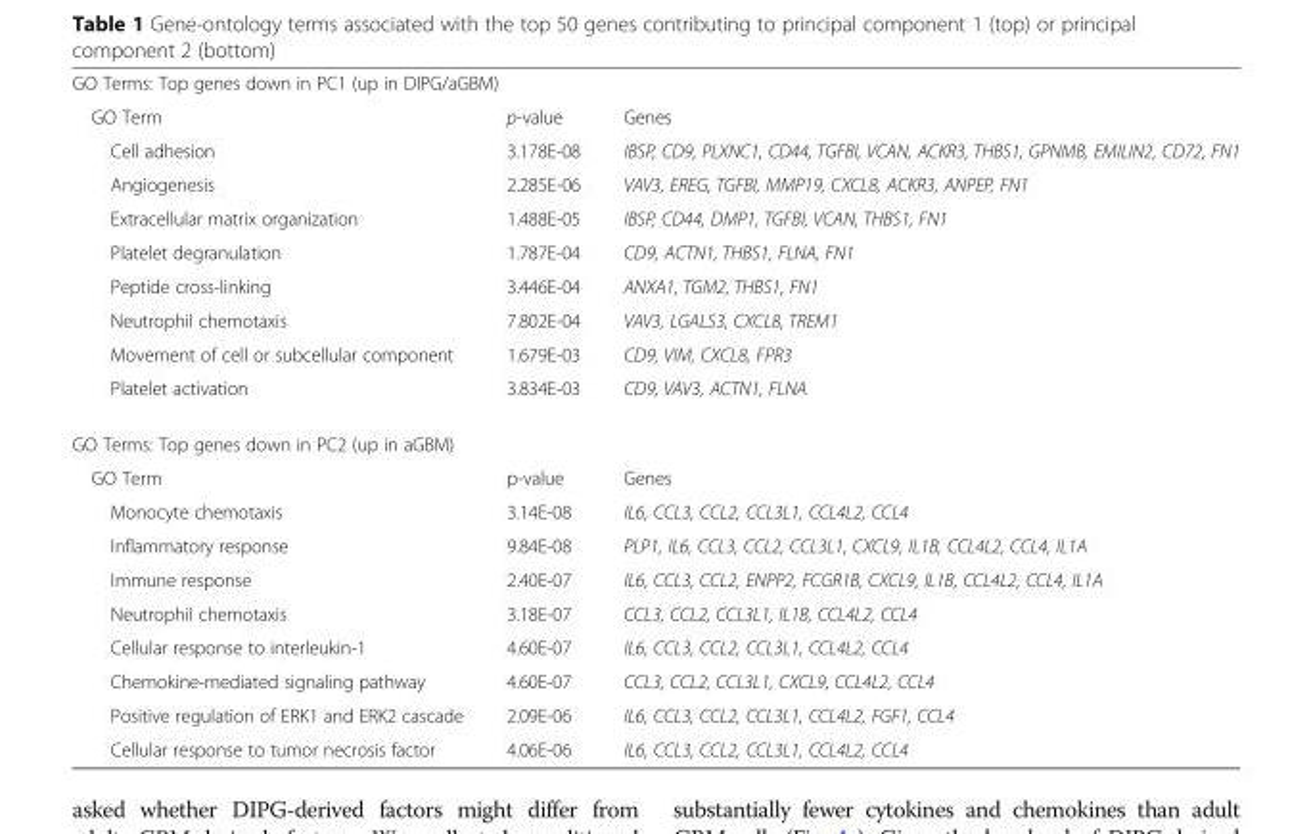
<table><tbody><tr><td colspan="3">GO Terms: Top genes down in PC1 (up in DIPG/aGBM)</td></tr><tr><td>GO Term</td><td>p-value</td><td>Genes</td></tr><tr><td>Cell adhesion</td><td>3.178E-08</td><td>IBSP, CD9, PLXNC1, CD44, TGFBI, VCAN, ACKR3, THBS1, GPNMB, EMILIN2, CD72, FN1</td></tr><tr><td>Angiogenesis</td><td>2.285E-06</td><td>VAV3, EREG, TGFBI, MMP19, CXCL8, ACKR3, ANPEP, FN1</td></tr><tr><td>Extracellular matrix organization</td><td>1.488E-05</td><td>IBSP, CD44, DMP1, TGFBI, VCAN, THBS1, FN1</td></tr><tr><td>Platelet degranulation</td><td>1.787E-04</td><td>CD9, ACTN1, THBS1, FLNA, FN1</td></tr><tr><td>Peptide cross-linking</td><td>3.446E-04</td><td>ANXA1, TGM2, THBS1, FN1</td></tr><tr><td>Neutrophil chemotaxis</td><td>7.802E-04</td><td>VAV3, LGALS3, CXCL8, TREM1</td></tr><tr><td>Movement of cell or subcellular component</td><td>1.679E-03</td><td>CD9, VIM, CXCL8, FPR3</td></tr><tr><td>Platelet activation</td><td>3.834E-03</td><td>CD9, VAV3, ACTN1, FLNA</td></tr><tr><td colspan="3">GO Terms: Top genes down in PC2 (up in aGBM)</td></tr><tr><td>GO Term</td><td>p-value</td><td>Genes</td></tr><tr><td>Monocyte chemotaxis</td><td>3.14E-08</td><td>IL6, CCL3, CCL2, CCL3L1, CCL4L2, CCL4</td></tr><tr><td>Inflammatory response</td><td>9.84E-08</td><td>PLP1, IL6, CCL3, CCL2, CCL3L1, CXCL9, IL1B, CCL4L2, CCL4, IL1A</td></tr><tr><td>Immune response</td><td>2.40E-07</td><td>IL6, CCL3, CCL2, ENPP2, FCGR1B, CXCL9, IL1B, CCL4L2, CCL4, IL1A</td></tr><tr><td>Neutrophil chemotaxis</td><td>3.18E-07</td><td>CCL3, CCL2, CCL3L1, IL1B, CCL4L2, CCL4</td></tr><tr><td>Cellular response to interleukin-1</td><td>4.60E-07</td><td>IL6, CCL3, CCL2, CCL3L1, CCL4L2, CCL4</td></tr><tr><td>Chemokine-mediated signaling pathway</td><td>4.60E-07</td><td>CCL3, CCL2, CCL3L1, CXCL9, CCL4L2, CCL4</td></tr><tr><td>Positive regulation of ERK1 and ERK2 cascade</td><td>2.09E-06</td><td>IL6, CCL3, CCL2, CCL3L1, CCL4L2, FGF1, CCL4</td></tr><tr><td>Cellular response to tumor necrosis factor</td><td>4.06E-06</td><td>IL6, CCL3, CCL2, CCL3L1, CCL4L2, CCL4</td></tr></tbody></table>